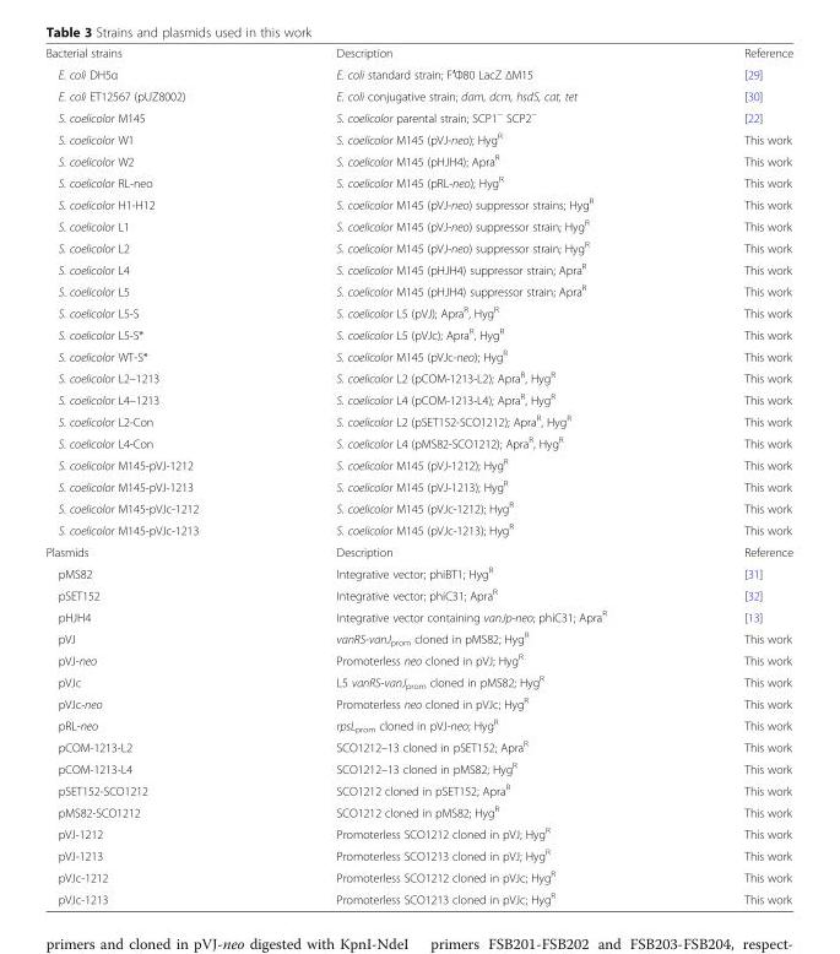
<table><tbody><tr><td>Bacterial strains</td><td>Description</td><td>Reference</td></tr><tr><td>E. coli DH5α</td><td>E. coli standard strain; F′Ф80 LacZ ΔM15</td><td>[29]</td></tr><tr><td>E. coli ET12567 (pUZ8002)</td><td>E. coli conjugative strain; dam, dcm, hsdS, cat, tet</td><td>[30]</td></tr><tr><td>S. coelicolor M145</td><td>S. coelicolor parental strain; SCP1<sup>−</sup> SCP2<sup>−</sup></td><td>[22]</td></tr><tr><td>S. coelicolor W1</td><td>S. coelicolor M145 (pVJ-neo); Hyg<sup>R</sup></td><td>This work</td></tr><tr><td>S. coelicolor W2</td><td>S. coelicolor M145 (pHJH4); Apra<sup>R</sup></td><td>This work</td></tr><tr><td>S. coelicolor RL-neo</td><td>S. coelicolor M145 (pRL-neo); Hyg<sup>R</sup></td><td>This work</td></tr><tr><td>S. coelicolor H1-H12</td><td>S. coelicolor M145 (pVJ-neo) suppressor strains; Hyg<sup>R</sup></td><td>This work</td></tr><tr><td>S. coelicolor L1</td><td>S. coelicolor M145 (pVJ-neo) suppressor strain; Hyg<sup>R</sup></td><td>This work</td></tr><tr><td>S. coelicolor L2</td><td>S. coelicolor M145 (pVJ-neo) suppressor strain; Hyg<sup>R</sup></td><td>This work</td></tr><tr><td>S. coelicolor L4</td><td>S. coelicolor M145 (pHJH4) suppressor strain; Apra<sup>R</sup></td><td>This work</td></tr><tr><td>S. coelicolor L5</td><td>S. coelicolor M145 (pHJH4) suppressor strain; Apra<sup>R</sup></td><td>This work</td></tr><tr><td>S. coelicolor L5-S</td><td>S. coelicolor L5 (pVJ); Apra<sup>R</sup>, Hyg<sup>R</sup></td><td>This work</td></tr><tr><td>S. coelicolor L5-S*</td><td>S. coelicolor L5 (pVJc); Apra<sup>R</sup>, Hyg<sup>R</sup></td><td>This work</td></tr><tr><td>S. coelicolor WT-S*</td><td>S. coelicolor M145 (pVJc-neo); Hyg<sup>R</sup></td><td>This work</td></tr><tr><td>S. coelicolor L2–1213</td><td>S. coelicolor L2 (pCOM-1213-L2); Apra<sup>R</sup>, Hyg<sup>R</sup></td><td>This work</td></tr><tr><td>S. coelicolor L4–1213</td><td>S. coelicolor L4 (pCOM-1213-L4); Apra<sup>R</sup>, Hyg<sup>R</sup></td><td>This work</td></tr><tr><td>S. coelicolor L2-Con</td><td>S. coelicolor L2 (pSET152-SCO1212); Apra<sup>R</sup>, Hyg<sup>R</sup></td><td>This work</td></tr><tr><td>S. coelicolor L4-Con</td><td>S. coelicolor L4 (pMS82-SCO1212); Apra<sup>R</sup>, Hyg<sup>R</sup></td><td>This work</td></tr><tr><td>S. coelicolor M145-pVJ-1212</td><td>S. coelicolor M145 (pVJ-1212); Hyg<sup>R</sup></td><td>This work</td></tr><tr><td>S. coelicolor M145-pVJ-1213</td><td>S. coelicolor M145 (pVJ-1213); Hyg<sup>R</sup></td><td>This work</td></tr><tr><td>S. coelicolor M145-pVJc-1212</td><td>S. coelicolor M145 (pVJc-1212); Hyg<sup>R</sup></td><td>This work</td></tr><tr><td>S. coelicolor M145-pVJc-1213</td><td>S. coelicolor M145 (pVJc-1213); Hyg<sup>R</sup></td><td>This work</td></tr><tr><td>Plasmids</td><td>Description</td><td>Reference</td></tr><tr><td>pMS82</td><td>Integrative vector; phiBT1; Hyg<sup>R</sup></td><td>[31]</td></tr><tr><td>pSET152</td><td>Integrative vector; phiC31; Apra<sup>R</sup></td><td>[32]</td></tr><tr><td>pHJH4</td><td>Integrative vector containing vanJp-neo; phiC31; Apra<sup>R</sup></td><td>[13]</td></tr><tr><td>pVJ</td><td>vanRS-vanJ<sub>prom</sub> cloned in pMS82; Hyg<sup>R</sup></td><td>This work</td></tr><tr><td>pVJ-neo</td><td>Promoterless neo cloned in pVJ; Hyg<sup>R</sup></td><td>This work</td></tr><tr><td>pVJc</td><td>L5 vanRS-vanJ<sub>prom</sub> cloned in pMS82; Hyg<sup>R</sup></td><td>This work</td></tr><tr><td>pVJc-neo</td><td>Promoterless neo cloned in pVJc; Hyg<sup>R</sup></td><td>This work</td></tr><tr><td>pRL-neo</td><td>rpsL<sub>prom</sub> cloned in pVJ-neo; Hyg<sup>R</sup></td><td>This work</td></tr><tr><td>pCOM-1213-L2</td><td>SCO1212–13 cloned in pSET152; Apra<sup>R</sup></td><td>This work</td></tr><tr><td>pCOM-1213-L4</td><td>SCO1212–13 cloned in pMS82; Hyg<sup>R</sup></td><td>This work</td></tr><tr><td>pSET152-SCO1212</td><td>SCO1212 cloned in pSET152; Apra<sup>R</sup></td><td>This work</td></tr><tr><td>pMS82-SCO1212</td><td>SCO1212 cloned in pMS82; Hyg<sup>R</sup></td><td>This work</td></tr><tr><td>pVJ-1212</td><td>Promoterless SCO1212 cloned in pVJ; Hyg<sup>R</sup></td><td>This work</td></tr><tr><td>pVJ-1213</td><td>Promoterless SCO1213 cloned in pVJ; Hyg<sup>R</sup></td><td>This work</td></tr><tr><td>pVJc-1212</td><td>Promoterless SCO1212 cloned in pVJc; Hyg<sup>R</sup></td><td>This work</td></tr><tr><td>pVJc-1213</td><td>Promoterless SCO1213 cloned in pVJc; Hyg<sup>R</sup></td><td>This work</td></tr></tbody></table>